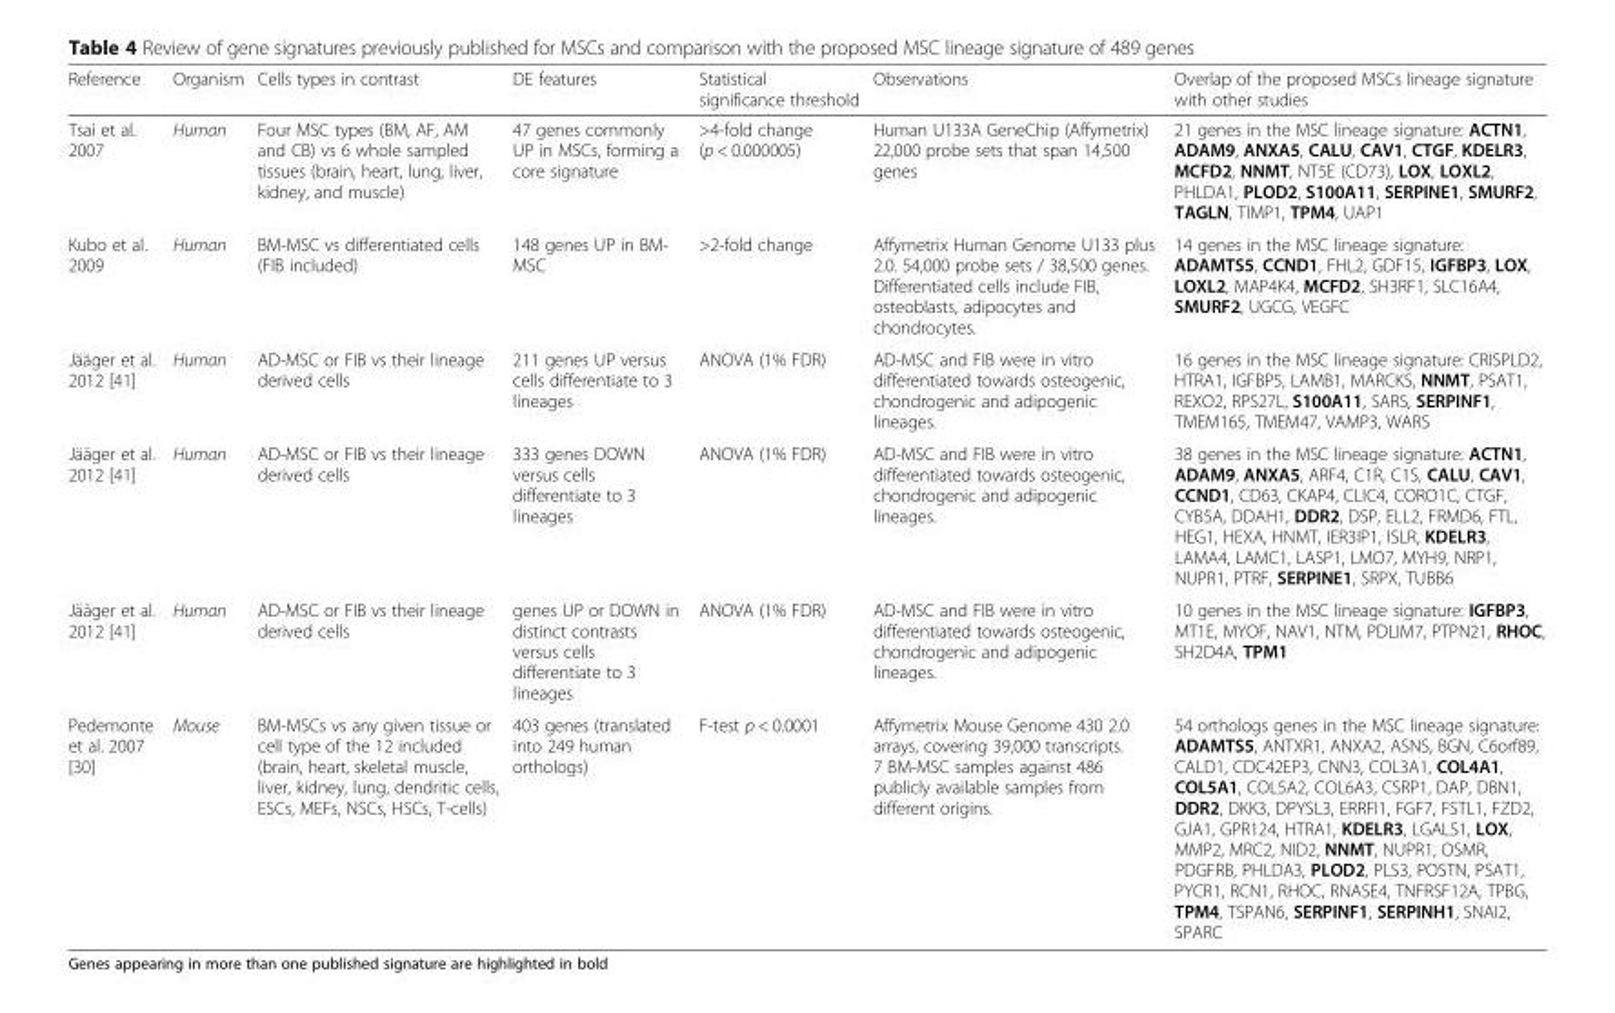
<table><thead><tr><td>Reference</td><td>Organism</td><td>Cells types in contrast</td><td>DE features</td><td>Statistical significance threshold</td><td>Observations</td><td>Overlap of the proposed MSCs lineage signature with other studies</td></tr></thead><tbody><tr><td>Tsai et al. 2007</td><td>Human</td><td>Four MSC types (BM, AF, AM and CB) vs 6 whole sampled tissues (brain, heart, lung, liver, kidney, and muscle)</td><td>47 genes commonly UP in MSCs, forming a core signature</td><td>&gt;4-fold change (p &lt; 0.000005)</td><td>Human U133A GeneChip (Affymetrix) 22,000 probe sets that span 14,500 genes</td><td>21 genes in the MSC lineage signature: ACTN1, ADAM9, ANXA5, CALU, CAV1, CTGF, KDELR3, MCFD2, NNMT, NT5E (CD73), LOX, LOXL2, PHLDA1, PLOD2, S100A11, SERPINE1, SMURF2, TAGLN, TIMP1, TPM4, UAP1</td></tr><tr><td>Kubo et al. 2009</td><td>Human</td><td>BM-MSC vs differentiated cells (FIB included)</td><td>148 genes UP in BM- MSC</td><td>&gt;2-fold change</td><td>Affymetrix Human Genome U133 plus 2.0. 54,000 probe sets / 38,500 genes. Differentiated cells include FIB, osteoblasts, adipocytes and chondrocytes.</td><td>14 genes in the MSC lineage signature: ADAMTS5, CCND1, FHL2, GDF15, IGFBP3, LOX, LOXL2, MAP4K4, MCFD2, SH3RF1, SLC16A4, SMURF2, UGCG, VEGFC</td></tr><tr><td>Jääger et al. 2012 [41]</td><td>Human</td><td>AD-MSC or FIB vs their lineage derived cells</td><td>211 genes UP versus cells differentiate to 3 lineages</td><td>ANOVA (1% FDR)</td><td>AD-MSC and FIB were in vitro differentiated towards osteogenic, chondrogenic and adipogenic lineages.</td><td>16 genes in the MSC lineage signature: CRISPLD2, HTRA1, IGFBP5, LAMB1, MARCKS, NNMT, PSAT1, REXO2, RPS27L, S100A11, SARS, SERPINF1, TMEM165, TMEM47, VAMP3, WARS</td></tr><tr><td>Jääger et al. 2012 [41]</td><td>Human</td><td>AD-MSC or FIB vs their lineage derived cells</td><td>333 genes DOWN versus cells differentiate to 3 lineages</td><td>ANOVA (1% FDR)</td><td>AD-MSC and FIB were in vitro differentiated towards osteogenic, chondrogenic and adipogenic lineages.</td><td>38 genes in the MSC lineage signature: ACTN1, ADAM9, ANXA5, ARF4, C1R, C1S, CALU, CAV1, CCND1, CD63, CKAP4, CLIC4, CORO1C, CTGF, CYB5A, DDAH1, DDR2, DSP, ELL2, FRMD6, FTL, HEG1, HEXA, HNMT, IER3IP1, ISLR, KDELR3, LAMA4, LAMC1, LASP1, LMO7, MYH9, NRP1, NUPR1, PTRF, SERPINE1, SRPX, TUBB6</td></tr><tr><td>Jääger et al. 2012 [41]</td><td>Human</td><td>AD-MSC or FIB vs their lineage derived cells</td><td>genes UP or DOWN in distinct contrasts versus cells differentiate to 3 lineages</td><td>ANOVA (1% FDR)</td><td>AD-MSC and FIB were in vitro differentiated towards osteogenic, chondrogenic and adipogenic lineages.</td><td>10 genes in the MSC lineage signature: IGFBP3, MT1E, MYOF, NAV1, NTM, PDLIM7, PTPN21, RHOC, SH2D4A, TPM1</td></tr><tr><td>Pedemonte et al. 2007 [30]</td><td>Mouse</td><td>BM-MSCs vs any given tissue or cell type of the 12 included (brain, heart, skeletal muscle, liver, kidney, lung, dendritic cells, ESCs, MEFs, NSCs, HSCs, T-cells)</td><td>403 genes (translated into 249 human orthologs)</td><td>F-test p &lt; 0.0001</td><td>Affymetrix Mouse Genome 430 2.0 arrays, covering 39,000 transcripts. 7 BM-MSC samples against 486 publicly available samples from different origins.</td><td>54 orthologs genes in the MSC lineage signature: ADAMTS5, ANTXR1, ANXA2, ASNS, BGN, C6orf89, CALD1, CDC42EP3, CNN3, COL3A1, COL4A1, COL5A1, COL5A2, COL6A3, CSRP1, DAP, DBN1, DDR2, DKK3, DPYSL3, ERRFI1, FGF7, FSTL1, FZD2, GJA1, GPR124, HTRA1, KDELR3, LGALS1, LOX, MMP2, MRC2, NID2, NNMT, NUPR1, OSMR, PDGFRB, PHLDA3, PLOD2, PLS3, POSTN, PSAT1, PYCR1, RCN1, RHOC, RNASE4, TNFRSF12A, TPBG, TPM4, TSPAN6, SERPINF1, SERPINH1, SNAI2, SPARC</td></tr></tbody></table>